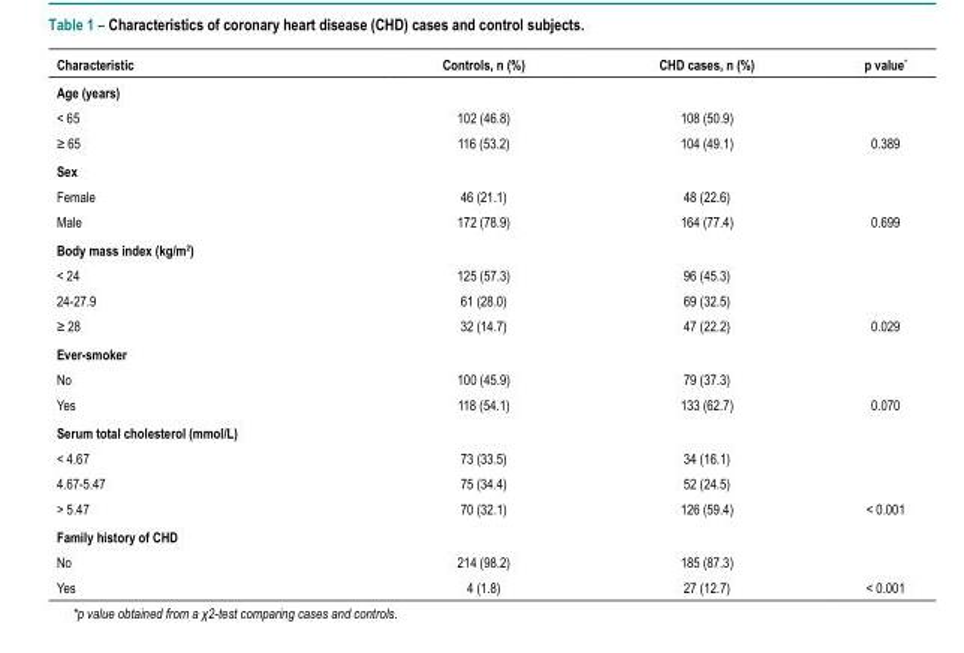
<table><thead><tr><td>Characteristic</td><td>Controls, n (%)</td><td>CHD cases, n (%)</td><td>p value*</td></tr></thead><tbody><tr><td colspan="4">Age (years)</td></tr><tr><td>&lt; 65</td><td>102 (46.8)</td><td>108 (50.9)</td><td></td></tr><tr><td>≥ 65</td><td>116 (53.2)</td><td>104 (49.1)</td><td>0.389</td></tr><tr><td colspan="4">Sex</td></tr><tr><td>Female</td><td>46 (21.1)</td><td>48 (22.6)</td><td></td></tr><tr><td>Male</td><td>172 (78.9)</td><td>164 (77.4)</td><td>0.699</td></tr><tr><td colspan="4">Body mass index (kg/m<sup>2</sup>)</td></tr><tr><td>&lt; 24</td><td>125 (57.3)</td><td>96 (45.3)</td><td></td></tr><tr><td>24-27.9</td><td>61 (28.0)</td><td>69 (32.5)</td><td></td></tr><tr><td>≥ 28</td><td>32 (14.7)</td><td>47 (22.2)</td><td>0.029</td></tr><tr><td colspan="4">Ever-smoker</td></tr><tr><td>No</td><td>100 (45.9)</td><td>79 (37.3)</td><td></td></tr><tr><td>Yes</td><td>118 (54.1)</td><td>133 (62.7)</td><td>0.070</td></tr><tr><td colspan="4">Serum total cholesterol (mmol/L)</td></tr><tr><td>&lt; 4.67</td><td>73 (33.5)</td><td>34 (16.1)</td><td></td></tr><tr><td>4.67-5.47</td><td>75 (34.4)</td><td>52 (24.5)</td><td></td></tr><tr><td>&gt; 5.47</td><td>70 (32.1)</td><td>126 (59.4)</td><td>&lt; 0.001</td></tr><tr><td colspan="4">Family history of CHD</td></tr><tr><td>No</td><td>214 (98.2)</td><td>185 (87.3)</td><td></td></tr><tr><td>Yes</td><td>4 (1.8)</td><td>27 (12.7)</td><td>&lt; 0.001</td></tr></tbody></table>